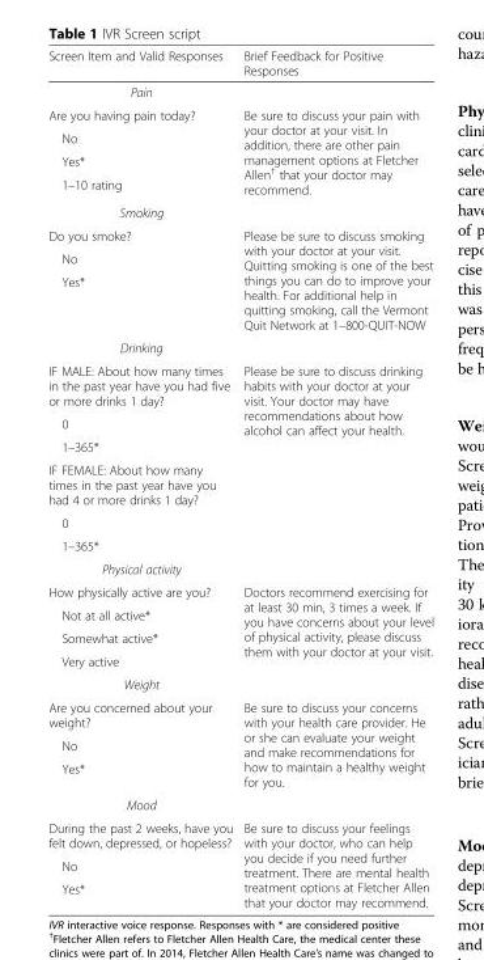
<table><thead><tr><td>Screen Item and Valid Responses</td><td>Brief Feedback for Positive Responses</td></tr></thead><tbody><tr><td colspan="2">Pain</td></tr><tr><td>Are you having pain today?</td><td rowspan="4">Be sure to discuss your pain with your doctor at your visit. In addition, there are other pain management options at Fletcher Allen<sup>†</sup> that your doctor may recommend.</td></tr><tr><td>No</td></tr><tr><td>Yes*</td></tr><tr><td>1–10 rating</td></tr><tr><td colspan="2">Smoking</td></tr><tr><td>Do you smoke?</td><td rowspan="3">Please be sure to discuss smoking with your doctor at your visit. Quitting smoking is one of the best things you can do to improve your health. For additional help in quitting smoking, call the Vermont Quit Network at 1–800-QUIT-NOW</td></tr><tr><td>No</td></tr><tr><td>Yes*</td></tr><tr><td colspan="2">Drinking</td></tr><tr><td>IF MALE: About how many times in the past year have you had five or more drinks 1 day?</td><td rowspan="6">Please be sure to discuss drinking habits with your doctor at your visit. Your doctor may have recommendations about how alcohol can affect your health.</td></tr><tr><td>0</td></tr><tr><td>1–365*</td></tr><tr><td>IF FEMALE: About how many times in the past year have you had 4 or more drinks 1 day?</td></tr><tr><td>0</td></tr><tr><td>1–365*</td></tr><tr><td colspan="2">Physical activity</td></tr><tr><td>How physically active are you?</td><td rowspan="4">Doctors recommend exercising for at least 30 min, 3 times a week. If you have concerns about your level of physical activity, please discuss them with your doctor at your visit.</td></tr><tr><td>Not at all active*</td></tr><tr><td>Somewhat active*</td></tr><tr><td>Very active</td></tr><tr><td colspan="2">Weight</td></tr><tr><td>Are you concerned about your weight?</td><td rowspan="3">Be sure to discuss your concerns with your health care provider. He or she can evaluate your weight and make recommendations for how to maintain a healthy weight for you.</td></tr><tr><td>No</td></tr><tr><td>Yes*</td></tr><tr><td colspan="2">Mood</td></tr><tr><td>During the past 2 weeks, have you felt down, depressed, or hopeless?</td><td rowspan="3">Be sure to discuss your feelings with your doctor, who can help you decide if you need further treatment. There are mental health treatment options at Fletcher Allen that your doctor may recommend.</td></tr><tr><td>No</td></tr><tr><td>Yes*</td></tr></tbody></table>